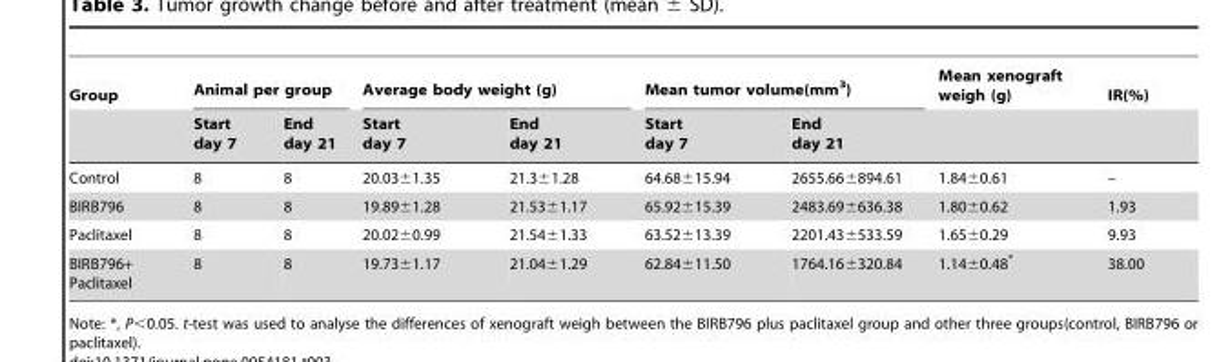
<table><thead><tr><td rowspan="2">Group</td><td colspan="2">Animal per group</td><td colspan="2">Average body weight (g)</td><td colspan="2">Mean tumor volume(mm<sup>3</sup>)</td><td rowspan="2">Mean xenograft weigh (g)</td><td rowspan="2">IR(%)</td></tr><tr><td>Start day 7</td><td>End day 21</td><td>Start day 7</td><td>End day 21</td><td>Start day 7</td><td>End day 21</td></tr></thead><tbody><tr><td>Control</td><td>8</td><td>8</td><td>20.03±1.35</td><td>21.3±1.28</td><td>64.68±15.94</td><td>2655.66±894.61</td><td>1.84±0.61</td><td>–</td></tr><tr><td>BIRB796</td><td>8</td><td>8</td><td>19.89±1.28</td><td>21.53±1.17</td><td>65.92±15.39</td><td>2483.69±636.38</td><td>1.80±0.62</td><td>1.93</td></tr><tr><td>Paclitaxel</td><td>8</td><td>8</td><td>20.02±0.99</td><td>21.54±1.33</td><td>63.52±13.39</td><td>2201.43±533.59</td><td>1.65±0.29</td><td>9.93</td></tr><tr><td>BIRB796+ Paclitaxel</td><td>8</td><td>8</td><td>19.73±1.17</td><td>21.04±1.29</td><td>62.84±11.50</td><td>1764.16±320.84</td><td>1.14±0.48*</td><td>38.00</td></tr></tbody></table>